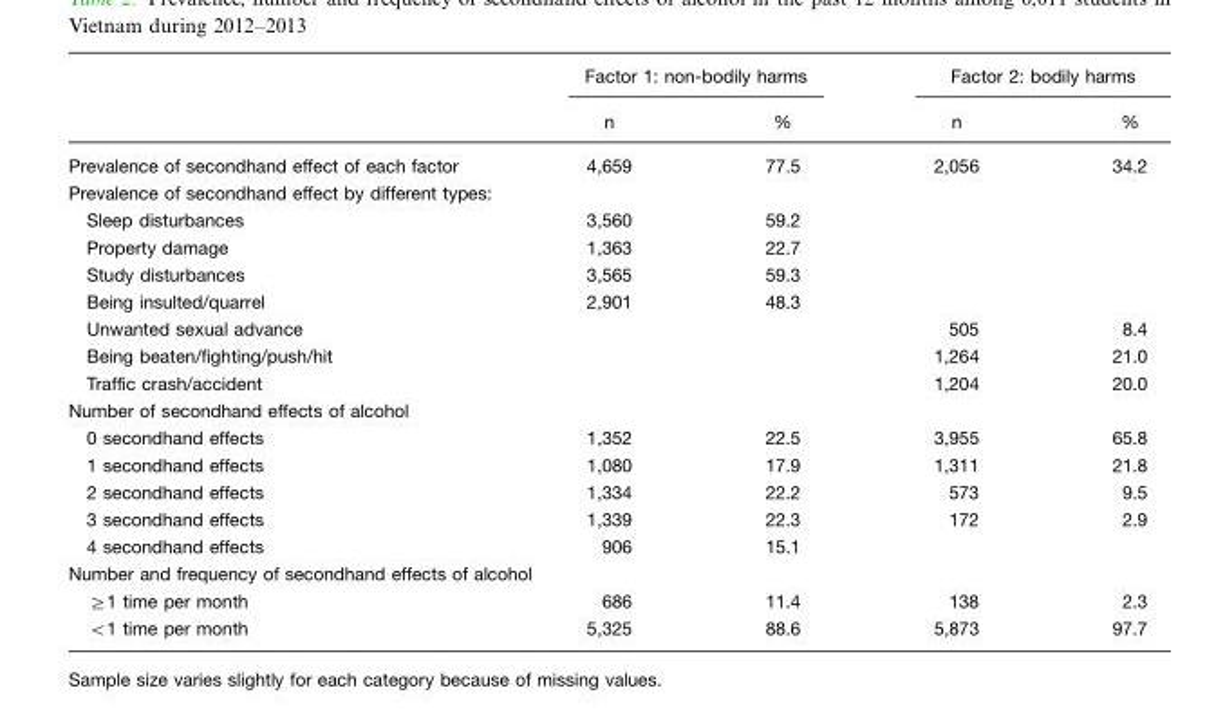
<table><thead><tr><td rowspan="2"></td><td colspan="2">Factor 1: non-bodily harms</td><td colspan="2">Factor 2: bodily harms</td></tr><tr><td>n</td><td>%</td><td>n</td><td>%</td></tr></thead><tbody><tr><td>Prevalence of secondhand effect of each factor</td><td>4,659</td><td>77.5</td><td>2,056</td><td>34.2</td></tr><tr><td colspan="5">Prevalence of secondhand effect by different types:</td></tr><tr><td>Sleep disturbances</td><td>3,560</td><td>59.2</td><td></td><td></td></tr><tr><td>Property damage</td><td>1,363</td><td>22.7</td><td></td><td></td></tr><tr><td>Study disturbances</td><td>3,565</td><td>59.3</td><td></td><td></td></tr><tr><td>Being insulted/quarrel</td><td>2,901</td><td>48.3</td><td></td><td></td></tr><tr><td>Unwanted sexual advance</td><td></td><td></td><td>505</td><td>8.4</td></tr><tr><td>Being beaten/fighting/push/hit</td><td></td><td></td><td>1,264</td><td>21.0</td></tr><tr><td>Traffic crash/accident</td><td></td><td></td><td>1,204</td><td>20.0</td></tr><tr><td colspan="5">Number of secondhand effects of alcohol</td></tr><tr><td>0 secondhand effects</td><td>1,352</td><td>22.5</td><td>3,955</td><td>65.8</td></tr><tr><td>1 secondhand effects</td><td>1,080</td><td>17.9</td><td>1,311</td><td>21.8</td></tr><tr><td>2 secondhand effects</td><td>1,334</td><td>22.2</td><td>573</td><td>9.5</td></tr><tr><td>3 secondhand effects</td><td>1,339</td><td>22.3</td><td>172</td><td>2.9</td></tr><tr><td>4 secondhand effects</td><td>906</td><td>15.1</td><td></td><td></td></tr><tr><td colspan="5">Number and frequency of secondhand effects of alcohol</td></tr><tr><td>≥1 time per month</td><td>686</td><td>11.4</td><td>138</td><td>2.3</td></tr><tr><td>&lt;1 time per month</td><td>5,325</td><td>88.6</td><td>5,873</td><td>97.7</td></tr></tbody></table>